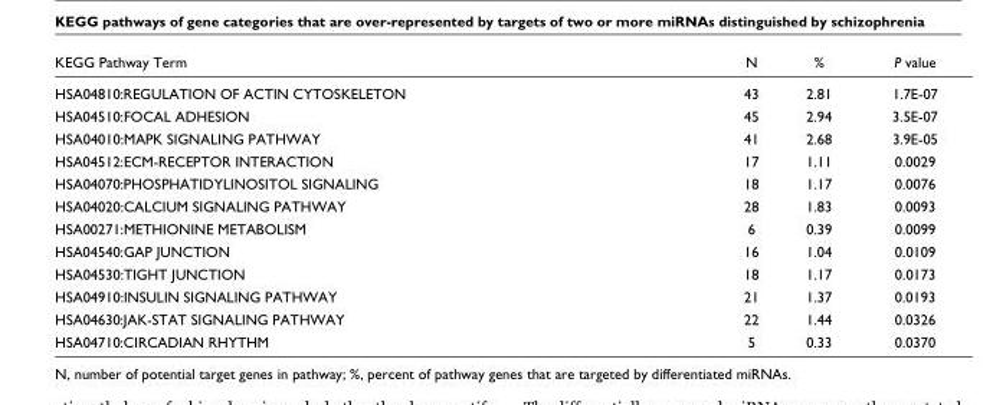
<table><thead><tr><td>KEGG Pathway Term</td><td>N</td><td>%</td><td>P value</td></tr></thead><tbody><tr><td>HSA04810:REGULATION OF ACTIN CYTOSKELETON</td><td>43</td><td>2.81</td><td>1.7E-07</td></tr><tr><td>HSA04510:FOCAL ADHESION</td><td>45</td><td>2.94</td><td>3.5E-07</td></tr><tr><td>HSA04010:MAPK SIGNALING PATHWAY</td><td>41</td><td>2.68</td><td>3.9E-05</td></tr><tr><td>HSA04512:ECM-RECEPTOR INTERACTION</td><td>17</td><td>1.11</td><td>0.0029</td></tr><tr><td>HSA04070:PHOSPHATIDYLINOSITOL SIGNALING</td><td>18</td><td>1.17</td><td>0.0076</td></tr><tr><td>HSA04020:CALCIUM SIGNALING PATHWAY</td><td>28</td><td>1.83</td><td>0.0093</td></tr><tr><td>HSA00271:METHIONINE METABOLISM</td><td>6</td><td>0.39</td><td>0.0099</td></tr><tr><td>HSA04540:GAP JUNCTION</td><td>16</td><td>1.04</td><td>0.0109</td></tr><tr><td>HSA04530:TIGHT JUNCTION</td><td>18</td><td>1.17</td><td>0.0173</td></tr><tr><td>HSA04910:INSULIN SIGNALING PATHWAY</td><td>21</td><td>1.37</td><td>0.0193</td></tr><tr><td>HSA04630:JAK-STAT SIGNALING PATHWAY</td><td>22</td><td>1.44</td><td>0.0326</td></tr><tr><td>HSA04710:CIRCADIAN RHYTHM</td><td>5</td><td>0.33</td><td>0.0370</td></tr></tbody></table>